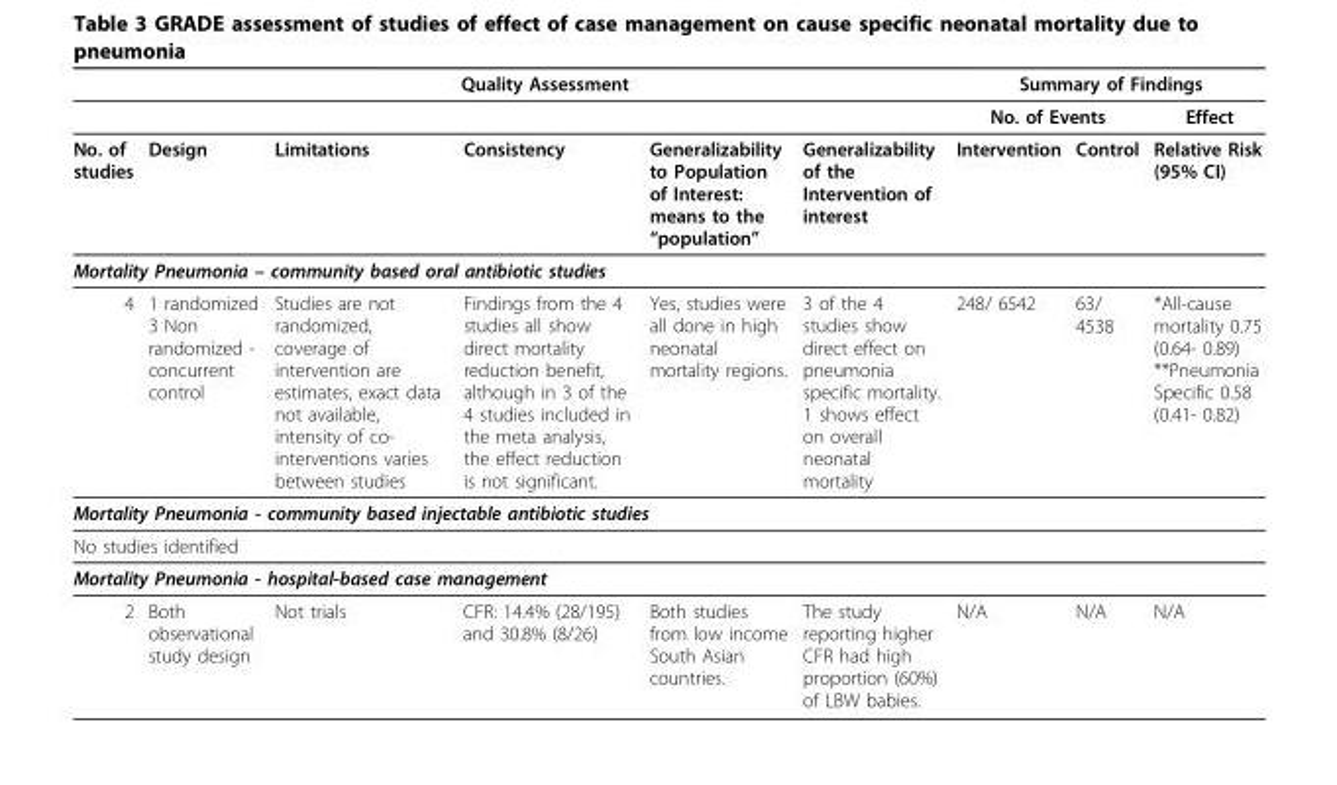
<table><thead><tr><td rowspan="3">No. of studies</td><td colspan="5">Quality Assessment</td><td colspan="3">Summary of Findings</td></tr><tr><td rowspan="2">Design</td><td rowspan="2">Limitations</td><td rowspan="2">Consistency</td><td colspan="2"></td><td colspan="2">No. of Events</td><td rowspan="2">Effect Relative Risk (95% CI)</td></tr><tr><td>Generalizability to Population of Interest: means to the “population”</td><td>Generalizability of the Intervention of interest</td><td>Intervention</td><td>Control</td></tr></thead><tbody><tr><td colspan="9">Mortality Pneumonia – community based oral antibiotic studies</td></tr><tr><td>4</td><td>1 randomized 3 Non randomized - concurrent control</td><td>Studies are not randomized, coverage of intervention are estimates, exact data not available, intensity of co- interventions varies between studies</td><td>Findings from the 4 studies all show direct mortality reduction benefit, although in 3 of the 4 studies included in the meta analysis, the effect reduction is not significant.</td><td>Yes, studies were all done in high neonatal mortality regions.</td><td>3 of the 4 studies show direct effect on pneumonia specific mortality. 1 shows effect on overall neonatal mortality</td><td>248/ 6542</td><td>63/ 4538</td><td>*All-cause mortality 0.75 (0.64- 0.89) **Pneumonia Specific 0.58 (0.41- 0.82)</td></tr><tr><td colspan="9">Mortality Pneumonia - community based injectable antibiotic studies</td></tr><tr><td colspan="9">No studies identified</td></tr><tr><td colspan="9">Mortality Pneumonia - hospital-based case management</td></tr><tr><td>2</td><td>Both observational study design</td><td>Not trials</td><td>CFR: 14.4% (28/195) and 30.8% (8/26)</td><td>Both studies from low income South Asian countries.</td><td>The study reporting higher CFR had high proportion (60%) of LBW babies.</td><td>N/A</td><td>N/A</td><td>N/A</td></tr></tbody></table>